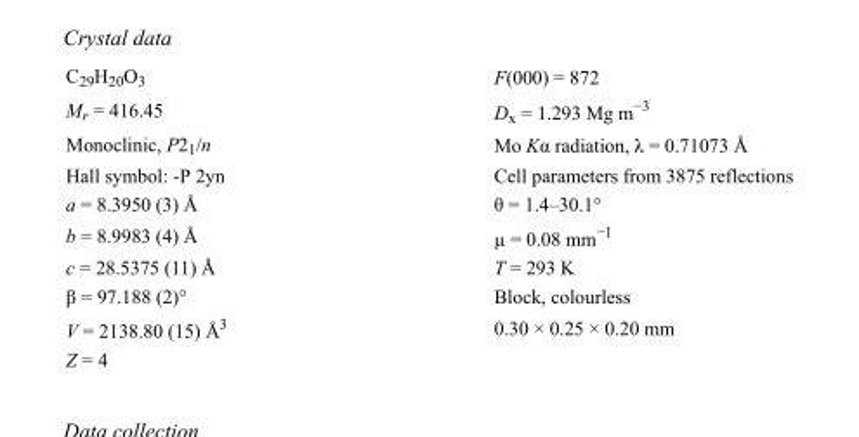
<table><tbody><tr><td>C<sub>29</sub>H<sub>20</sub>O<sub>3</sub></td><td>F(000) = 872</td></tr><tr><td>M<sub>r</sub> = 416.45</td><td>D<sub>x</sub> = 1.293 Mg m<sup>−3</sup></td></tr><tr><td>Monoclinic, P2<sub>1</sub>/n</td><td>Mo Kα radiation, λ = 0.71073 Å</td></tr><tr><td>Hall symbol: -P 2yn</td><td>Cell parameters from 3875 reflections</td></tr><tr><td>a = 8.3950 (3) Å</td><td>θ = 1.4–30.1°</td></tr><tr><td>b = 8.9983 (4) Å</td><td>µ = 0.08 mm<sup>−1</sup></td></tr><tr><td>c = 28.5375 (11) Å</td><td>T = 293 K</td></tr><tr><td>β = 97.188 (2)°</td><td>Block, colourless</td></tr><tr><td>V = 2138.80 (15) Å<sup>3</sup></td><td>0.30 × 0.25 × 0.20 mm</td></tr><tr><td>Z = 4</td><td></td></tr></tbody></table>